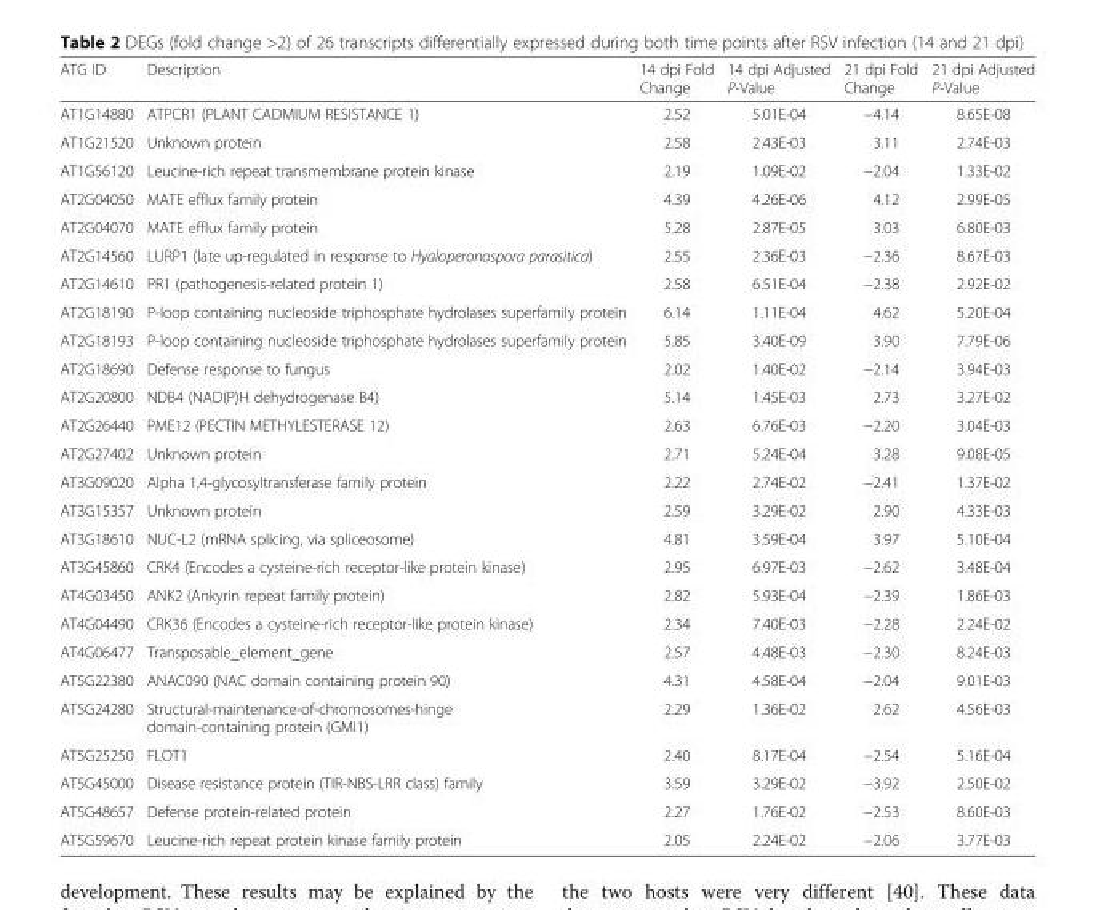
<table><thead><tr><td>ATG ID</td><td>Description</td><td>14 dpi Fold Change</td><td>14 dpi Adjusted P-Value</td><td>21 dpi Fold Change</td><td>21 dpi Adjusted P-Value</td></tr></thead><tbody><tr><td>AT1G14880</td><td>ATPCR1 (PLANT CADMIUM RESISTANCE 1)</td><td>2.52</td><td>5.01E-04</td><td>−4.14</td><td>8.65E-08</td></tr><tr><td>AT1G21520</td><td>Unknown protein</td><td>2.58</td><td>2.43E-03</td><td>3.11</td><td>2.74E-03</td></tr><tr><td>AT1G56120</td><td>Leucine-rich repeat transmembrane protein kinase</td><td>2.19</td><td>1.09E-02</td><td>−2.04</td><td>1.33E-02</td></tr><tr><td>AT2G04050</td><td>MATE efflux family protein</td><td>4.39</td><td>4.26E-06</td><td>4.12</td><td>2.99E-05</td></tr><tr><td>AT2G04070</td><td>MATE efflux family protein</td><td>5.28</td><td>2.87E-05</td><td>3.03</td><td>6.80E-03</td></tr><tr><td>AT2G14560</td><td>LURP1 (late up-regulated in response to Hyaloperonospora parasitica)</td><td>2.55</td><td>2.36E-03</td><td>−2.36</td><td>8.67E-03</td></tr><tr><td>AT2G14610</td><td>PR1 (pathogenesis-related protein 1)</td><td>2.58</td><td>6.51E-04</td><td>−2.38</td><td>2.92E-02</td></tr><tr><td>AT2G18190</td><td>P-loop containing nucleoside triphosphate hydrolases superfamily protein</td><td>6.14</td><td>1.11E-04</td><td>4.62</td><td>5.20E-04</td></tr><tr><td>AT2G18193</td><td>P-loop containing nucleoside triphosphate hydrolases superfamily protein</td><td>5.85</td><td>3.40E-09</td><td>3.90</td><td>7.79E-06</td></tr><tr><td>AT2G18690</td><td>Defense response to fungus</td><td>2.02</td><td>1.40E-02</td><td>−2.14</td><td>3.94E-03</td></tr><tr><td>AT2G20800</td><td>NDB4 (NAD(P)H dehydrogenase B4)</td><td>5.14</td><td>1.45E-03</td><td>2.73</td><td>3.27E-02</td></tr><tr><td>AT2G26440</td><td>PME12 (PECTIN METHYLESTERASE 12)</td><td>2.63</td><td>6.76E-03</td><td>−2.20</td><td>3.04E-03</td></tr><tr><td>AT2G27402</td><td>Unknown protein</td><td>2.71</td><td>5.24E-04</td><td>3.28</td><td>9.08E-05</td></tr><tr><td>AT3G09020</td><td>Alpha 1,4-glycosyltransferase family protein</td><td>2.22</td><td>2.74E-02</td><td>−2.41</td><td>1.37E-02</td></tr><tr><td>AT3G15357</td><td>Unknown protein</td><td>2.59</td><td>3.29E-02</td><td>2.90</td><td>4.33E-03</td></tr><tr><td>AT3G18610</td><td>NUC-L2 (mRNA splicing, via spliceosome)</td><td>4.81</td><td>3.59E-04</td><td>3.97</td><td>5.10E-04</td></tr><tr><td>AT3G45860</td><td>CRK4 (Encodes a cysteine-rich receptor-like protein kinase)</td><td>2.95</td><td>6.97E-03</td><td>−2.62</td><td>3.48E-04</td></tr><tr><td>AT4G03450</td><td>ANK2 (Ankyrin repeat family protein)</td><td>2.82</td><td>5.93E-04</td><td>−2.39</td><td>1.86E-03</td></tr><tr><td>AT4G04490</td><td>CRK36 (Encodes a cysteine-rich receptor-like protein kinase)</td><td>2.34</td><td>7.40E-03</td><td>−2.28</td><td>2.24E-02</td></tr><tr><td>AT4G06477</td><td>Transposable_element_gene</td><td>2.57</td><td>4.48E-03</td><td>−2.30</td><td>8.24E-03</td></tr><tr><td>AT5G22380</td><td>ANAC090 (NAC domain containing protein 90)</td><td>4.31</td><td>4.58E-04</td><td>−2.04</td><td>9.01E-03</td></tr><tr><td>AT5G24280</td><td>Structural-maintenance-of-chromosomes-hinge domain-containing protein (GMI1)</td><td>2.29</td><td>1.36E-02</td><td>2.62</td><td>4.56E-03</td></tr><tr><td>AT5G25250</td><td>FLOT1</td><td>2.40</td><td>8.17E-04</td><td>−2.54</td><td>5.16E-04</td></tr><tr><td>AT5G45000</td><td>Disease resistance protein (TIR-NBS-LRR class) family</td><td>3.59</td><td>3.29E-02</td><td>−3.92</td><td>2.50E-02</td></tr><tr><td>AT5G48657</td><td>Defense protein-related protein</td><td>2.27</td><td>1.76E-02</td><td>−2.53</td><td>8.60E-03</td></tr><tr><td>AT5G59670</td><td>Leucine-rich repeat protein kinase family protein</td><td>2.05</td><td>2.24E-02</td><td>−2.06</td><td>3.77E-03</td></tr></tbody></table>